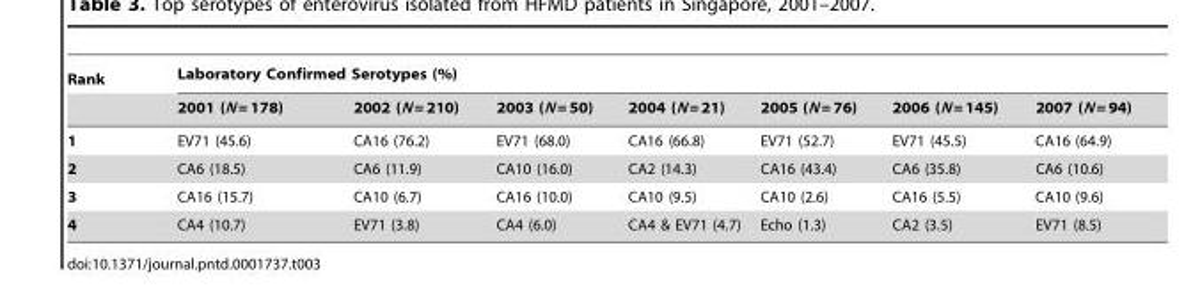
<table><thead><tr><td rowspan="2">Rank</td><td colspan="7">Laboratory Confirmed Serotypes (%)</td></tr><tr><td>2001 (N = 178)</td><td>2002 (N = 210)</td><td>2003 (N = 50)</td><td>2004 (N = 21)</td><td>2005 (N = 76)</td><td>2006 (N = 145)</td><td>2007 (N = 94)</td></tr></thead><tbody><tr><td>1</td><td>EV71 (45.6)</td><td>CA16 (76.2)</td><td>EV71 (68.0)</td><td>CA16 (66.8)</td><td>EV71 (52.7)</td><td>EV71 (45.5)</td><td>CA16 (64.9)</td></tr><tr><td>2</td><td>CA6 (18.5)</td><td>CA6 (11.9)</td><td>CA10 (16.0)</td><td>CA2 (14.3)</td><td>CA16 (43.4)</td><td>CA6 (35.8)</td><td>CA6 (10.6)</td></tr><tr><td>3</td><td>CA16 (15.7)</td><td>CA10 (6.7)</td><td>CA16 (10.0)</td><td>CA10 (9.5)</td><td>CA10 (2.6)</td><td>CA16 (5.5)</td><td>CA10 (9.6)</td></tr><tr><td>4</td><td>CA4 (10.7)</td><td>EV71 (3.8)</td><td>CA4 (6.0)</td><td>CA4 &amp; EV71 (4.7)</td><td>Echo (1.3)</td><td>CA2 (3.5)</td><td>EV71 (8.5)</td></tr></tbody></table>